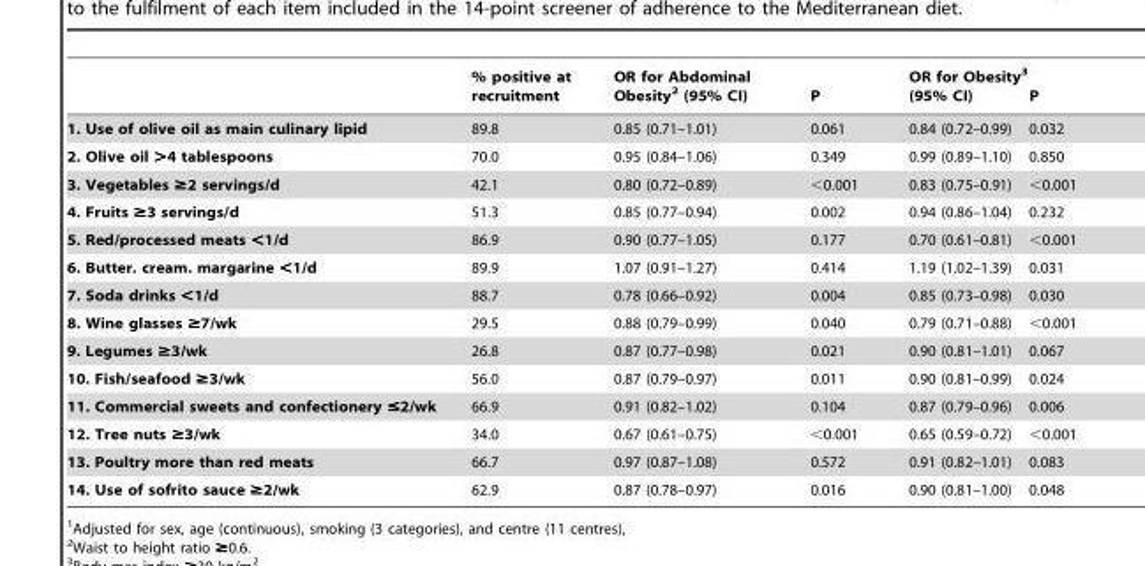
<table><thead><tr><td></td><td>% positive at recruitment</td><td>OR for Abdominal Obesity<sup>2</sup> (95% CI)</td><td>P</td><td>OR for Obesity<sup>3</sup> (95% CI)</td><td>P</td></tr></thead><tbody><tr><td>1. Use of olive oil as main culinary lipid</td><td>89.8</td><td>0.85 (0.71–1.01)</td><td>0.061</td><td>0.84 (0.72–0.99)</td><td>0.032</td></tr><tr><td>2. Olive oil &gt;4 tablespoons</td><td>70.0</td><td>0.95 (0.84–1.06)</td><td>0.349</td><td>0.99 (0.89–1.10)</td><td>0.850</td></tr><tr><td>3. Vegetables ≥2 servings/d</td><td>42.1</td><td>0.80 (0.72–0.89)</td><td>&lt;0.001</td><td>0.83 (0.75–0.91)</td><td>&lt;0.001</td></tr><tr><td>4. Fruits ≥3 servings/d</td><td>51.3</td><td>0.85 (0.77–0.94)</td><td>0.002</td><td>0.94 (0.86–1.04)</td><td>0.232</td></tr><tr><td>5. Red/processed meats &lt;1/d</td><td>86.9</td><td>0.90 (0.77–1.05)</td><td>0.177</td><td>0.70 (0.61–0.81)</td><td>&lt;0.001</td></tr><tr><td>6. Butter. cream. margarine &lt;1/d</td><td>89.9</td><td>1.07 (0.91–1.27)</td><td>0.414</td><td>1.19 (1.02–1.39)</td><td>0.031</td></tr><tr><td>7. Soda drinks &lt;1/d</td><td>88.7</td><td>0.78 (0.66–0.92)</td><td>0.004</td><td>0.85 (0.73–0.98)</td><td>0.030</td></tr><tr><td>8. Wine glasses ≥7/wk</td><td>29.5</td><td>0.88 (0.79–0.99)</td><td>0.040</td><td>0.79 (0.71–0.88)</td><td>&lt;0.001</td></tr><tr><td>9. Legumes ≥3/wk</td><td>26.8</td><td>0.87 (0.77–0.98)</td><td>0.021</td><td>0.90 (0.81–1.01)</td><td>0.067</td></tr><tr><td>10. Fish/seafood ≥3/wk</td><td>56.0</td><td>0.87 (0.79–0.97)</td><td>0.011</td><td>0.90 (0.81–0.99)</td><td>0.024</td></tr><tr><td>11. Commercial sweets and confectionery ≤2/wk</td><td>66.9</td><td>0.91 (0.82–1.02)</td><td>0.104</td><td>0.87 (0.79–0.96)</td><td>0.006</td></tr><tr><td>12. Tree nuts ≥3/wk</td><td>34.0</td><td>0.67 (0.61–0.75)</td><td>&lt;0.001</td><td>0.65 (0.59–0.72)</td><td>&lt;0.001</td></tr><tr><td>13. Poultry more than red meats</td><td>66.7</td><td>0.97 (0.87–1.08)</td><td>0.572</td><td>0.91 (0.82–1.01)</td><td>0.083</td></tr><tr><td>14. Use of sofrito sauce ≥2/wk</td><td>62.9</td><td>0.87 (0.78–0.97)</td><td>0.016</td><td>0.90 (0.81–1.00)</td><td>0.048</td></tr></tbody></table>